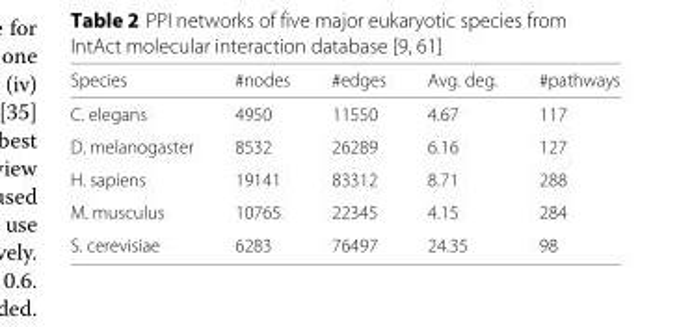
<table><thead><tr><td>Species</td><td>#nodes</td><td>#edges</td><td>Avg. deg.</td><td>#pathways</td></tr></thead><tbody><tr><td>C. elegans</td><td>4950</td><td>11550</td><td>4.67</td><td>117</td></tr><tr><td>D. melanogaster</td><td>8532</td><td>26289</td><td>6.16</td><td>127</td></tr><tr><td>H. sapiens</td><td>19141</td><td>83312</td><td>8.71</td><td>288</td></tr><tr><td>M. musculus</td><td>10765</td><td>22345</td><td>4.15</td><td>284</td></tr><tr><td>S. cerevisiae</td><td>6283</td><td>76497</td><td>24.35</td><td>98</td></tr></tbody></table>